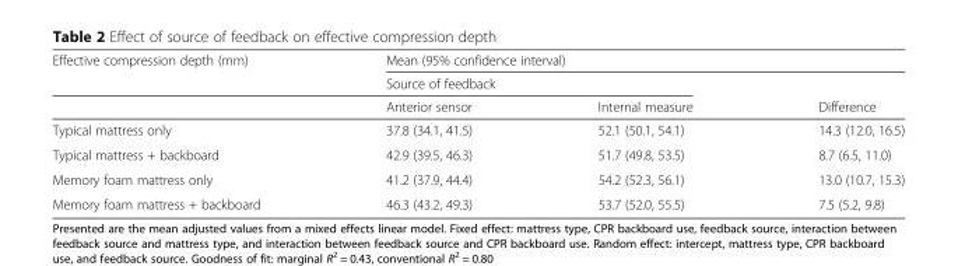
<table><thead><tr><td rowspan="3">Effective compression depth (mm)</td><td colspan="3">Mean (95% confidence interval)</td></tr><tr><td colspan="2">Source of feedback</td><td rowspan="2">Difference</td></tr><tr><td>Anterior sensor</td><td>Internal measure</td></tr></thead><tbody><tr><td>Typical mattress only</td><td>37.8 (34.1, 41.5)</td><td>52.1 (50.1, 54.1)</td><td>14.3 (12.0, 16.5)</td></tr><tr><td>Typical mattress + backboard</td><td>42.9 (39.5, 46.3)</td><td>51.7 (49.8, 53.5)</td><td>8.7 (6.5, 11.0)</td></tr><tr><td>Memory foam mattress only</td><td>41.2 (37.9, 44.4)</td><td>54.2 (52.3, 56.1)</td><td>13.0 (10.7, 15.3)</td></tr><tr><td>Memory foam mattress + backboard</td><td>46.3 (43.2, 49.3)</td><td>53.7 (52.0, 55.5)</td><td>7.5 (5.2, 9.8)</td></tr></tbody></table>